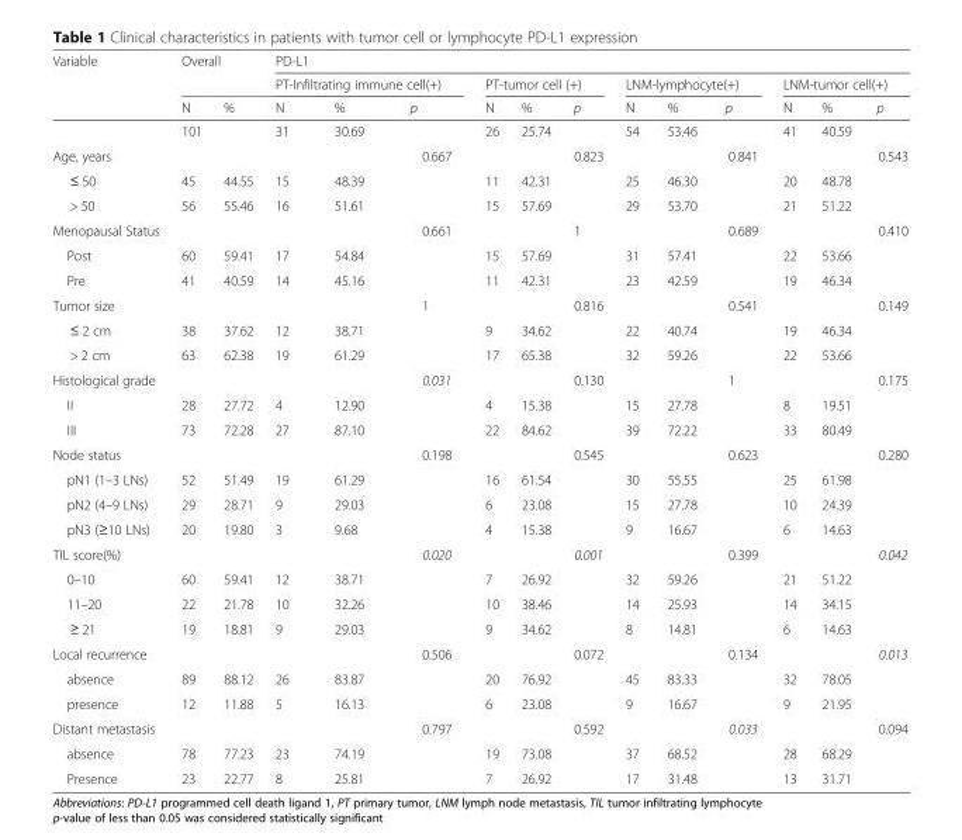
<table><thead><tr><td rowspan="3">Variable</td><td rowspan="2" colspan="2">Overall</td><td colspan="12">PD-L1</td></tr><tr><td colspan="3">PT-Infiltrating immune cell(+)</td><td colspan="3">PT-tumor cell (+)</td><td colspan="3">LNM-lymphocyte(+)</td><td colspan="3">LNM-tumor cell(+)</td></tr><tr><td>N</td><td>%</td><td>N</td><td>%</td><td>p</td><td>N</td><td>%</td><td>p</td><td>N</td><td>%</td><td>p</td><td>N</td><td>%</td><td>p</td></tr></thead><tbody><tr><td></td><td>101</td><td></td><td>31</td><td>30.69</td><td></td><td>26</td><td>25.74</td><td></td><td>54</td><td>53.46</td><td></td><td>41</td><td>40.59</td><td></td></tr><tr><td>Age, years</td><td></td><td></td><td></td><td></td><td>0.667</td><td></td><td></td><td>0.823</td><td></td><td></td><td>0.841</td><td></td><td></td><td>0.543</td></tr><tr><td>≤ 50</td><td>45</td><td>44.55</td><td>15</td><td>48.39</td><td></td><td>11</td><td>42.31</td><td></td><td>25</td><td>46.30</td><td></td><td>20</td><td>48.78</td><td></td></tr><tr><td>&gt; 50</td><td>56</td><td>55.46</td><td>16</td><td>51.61</td><td></td><td>15</td><td>57.69</td><td></td><td>29</td><td>53.70</td><td></td><td>21</td><td>51.22</td><td></td></tr><tr><td>Menopausal Status</td><td></td><td></td><td></td><td></td><td>0.661</td><td></td><td></td><td>1</td><td></td><td></td><td>0.689</td><td></td><td></td><td>0.410</td></tr><tr><td>Post</td><td>60</td><td>59.41</td><td>17</td><td>54.84</td><td></td><td>15</td><td>57.69</td><td></td><td>31</td><td>57.41</td><td></td><td>22</td><td>53.66</td><td></td></tr><tr><td>Pre</td><td>41</td><td>40.59</td><td>14</td><td>45.16</td><td></td><td>11</td><td>42.31</td><td></td><td>23</td><td>42.59</td><td></td><td>19</td><td>46.34</td><td></td></tr><tr><td>Tumor size</td><td></td><td></td><td></td><td></td><td>1</td><td></td><td></td><td>0.816</td><td></td><td></td><td>0.541</td><td></td><td></td><td>0.149</td></tr><tr><td>≤ 2 cm</td><td>38</td><td>37.62</td><td>12</td><td>38.71</td><td></td><td>9</td><td>34.62</td><td></td><td>22</td><td>40.74</td><td></td><td>19</td><td>46.34</td><td></td></tr><tr><td>&gt; 2 cm</td><td>63</td><td>62.38</td><td>19</td><td>61.29</td><td></td><td>17</td><td>65.38</td><td></td><td>32</td><td>59.26</td><td></td><td>22</td><td>53.66</td><td></td></tr><tr><td>Histological grade</td><td></td><td></td><td></td><td></td><td>0.031</td><td></td><td></td><td>0.130</td><td></td><td></td><td>1</td><td></td><td></td><td>0.175</td></tr><tr><td>II</td><td>28</td><td>27.72</td><td>4</td><td>12.90</td><td></td><td>4</td><td>15.38</td><td></td><td>15</td><td>27.78</td><td></td><td>8</td><td>19.51</td><td></td></tr><tr><td>III</td><td>73</td><td>72.28</td><td>27</td><td>87.10</td><td></td><td>22</td><td>84.62</td><td></td><td>39</td><td>72.22</td><td></td><td>33</td><td>80.49</td><td></td></tr><tr><td>Node status</td><td></td><td></td><td></td><td></td><td>0.198</td><td></td><td></td><td>0.545</td><td></td><td></td><td>0.623</td><td></td><td></td><td>0.280</td></tr><tr><td>pN1 (1–3 LNs)</td><td>52</td><td>51.49</td><td>19</td><td>61.29</td><td></td><td>16</td><td>61.54</td><td></td><td>30</td><td>55.55</td><td></td><td>25</td><td>61.98</td><td></td></tr><tr><td>pN2 (4–9 LNs)</td><td>29</td><td>28.71</td><td>9</td><td>29.03</td><td></td><td>6</td><td>23.08</td><td></td><td>15</td><td>27.78</td><td></td><td>10</td><td>24.39</td><td></td></tr><tr><td>pN3 (≥10 LNs)</td><td>20</td><td>19.80</td><td>3</td><td>9.68</td><td></td><td>4</td><td>15.38</td><td></td><td>9</td><td>16.67</td><td></td><td>6</td><td>14.63</td><td></td></tr><tr><td>TIL score(%)</td><td></td><td></td><td></td><td></td><td>0.020</td><td></td><td></td><td>0.001</td><td></td><td></td><td>0.399</td><td></td><td></td><td>0.042</td></tr><tr><td>0–10</td><td>60</td><td>59.41</td><td>12</td><td>38.71</td><td></td><td>7</td><td>26.92</td><td></td><td>32</td><td>59.26</td><td></td><td>21</td><td>51.22</td><td></td></tr><tr><td>11–20</td><td>22</td><td>21.78</td><td>10</td><td>32.26</td><td></td><td>10</td><td>38.46</td><td></td><td>14</td><td>25.93</td><td></td><td>14</td><td>34.15</td><td></td></tr><tr><td>≥ 21</td><td>19</td><td>18.81</td><td>9</td><td>29.03</td><td></td><td>9</td><td>34.62</td><td></td><td>8</td><td>14.81</td><td></td><td>6</td><td>14.63</td><td></td></tr><tr><td>Local recurrence</td><td></td><td></td><td></td><td></td><td>0.506</td><td></td><td></td><td>0.072</td><td></td><td></td><td>0.134</td><td></td><td></td><td>0.013</td></tr><tr><td>absence</td><td>89</td><td>88.12</td><td>26</td><td>83.87</td><td></td><td>20</td><td>76.92</td><td></td><td>45</td><td>83.33</td><td></td><td>32</td><td>78.05</td><td></td></tr><tr><td>presence</td><td>12</td><td>11.88</td><td>5</td><td>16.13</td><td></td><td>6</td><td>23.08</td><td></td><td>9</td><td>16.67</td><td></td><td>9</td><td>21.95</td><td></td></tr><tr><td>Distant metastasis</td><td></td><td></td><td></td><td></td><td>0.797</td><td></td><td></td><td>0.592</td><td></td><td></td><td>0.033</td><td></td><td></td><td>0.094</td></tr><tr><td>absence</td><td>78</td><td>77.23</td><td>23</td><td>74.19</td><td></td><td>19</td><td>73.08</td><td></td><td>37</td><td>68.52</td><td></td><td>28</td><td>68.29</td><td></td></tr><tr><td>Presence</td><td>23</td><td>22.77</td><td>8</td><td>25.81</td><td></td><td>7</td><td>26.92</td><td></td><td>17</td><td>31.48</td><td></td><td>13</td><td>31.71</td><td></td></tr></tbody></table>